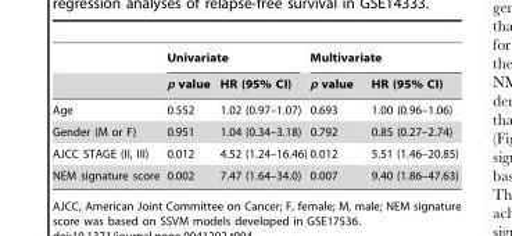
<table><thead><tr><td rowspan="2"></td><td colspan="2">Univariate</td><td colspan="2">Multivariate</td></tr><tr><td>p value</td><td>HR (95% CI)</td><td>p value</td><td>HR (95% CI)</td></tr></thead><tbody><tr><td>Age</td><td>0.552</td><td>1.02 (0.97–1.07)</td><td>0.693</td><td>1.00 (0.96–1.06)</td></tr><tr><td>Gender (M or F)</td><td>0.951</td><td>1.04 (0.34–3.18)</td><td>0.792</td><td>0.85 (0.27–2.74)</td></tr><tr><td>AJCC STAGE (II, III)</td><td>0.012</td><td>4.52 (1.24–16.46)</td><td>0.012</td><td>5.51 (1.46–20.85)</td></tr><tr><td>NEM signature score</td><td>0.002</td><td>7.47 (1.64–34.0)</td><td>0.007</td><td>9.40 (1.86–47.63)</td></tr></tbody></table>